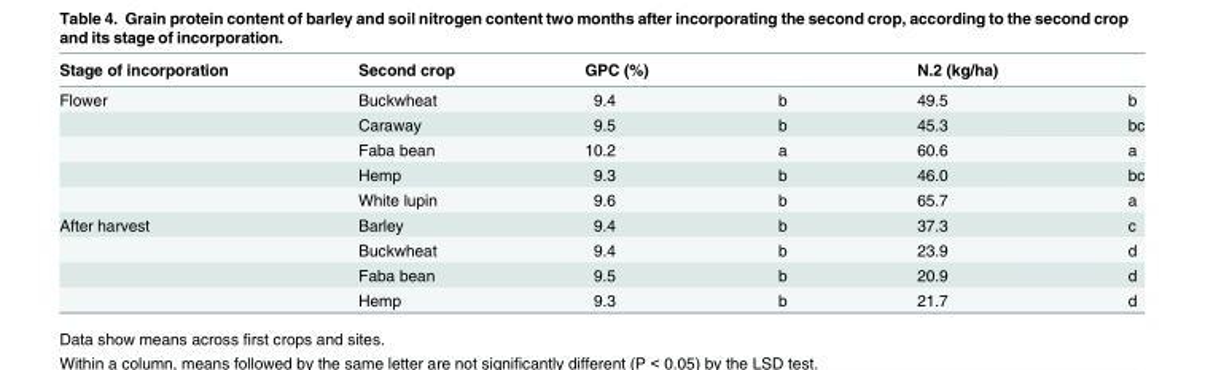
<table><thead><tr><td>Stage of incorporation</td><td>Second crop</td><td>GPC (%)</td><td></td><td>N.2 (kg/ha)</td><td></td></tr></thead><tbody><tr><td rowspan="5">Flower</td><td>Buckwheat</td><td>9.4</td><td>b</td><td>49.5</td><td>b</td></tr><tr><td>Caraway</td><td>9.5</td><td>b</td><td>45.3</td><td>bc</td></tr><tr><td>Faba bean</td><td>10.2</td><td>a</td><td>60.6</td><td>a</td></tr><tr><td>Hemp</td><td>9.3</td><td>b</td><td>46.0</td><td>bc</td></tr><tr><td>White lupin</td><td>9.6</td><td>b</td><td>65.7</td><td>a</td></tr><tr><td rowspan="4">After harvest</td><td>Barley</td><td>9.4</td><td>b</td><td>37.3</td><td>c</td></tr><tr><td>Buckwheat</td><td>9.4</td><td>b</td><td>23.9</td><td>d</td></tr><tr><td>Faba bean</td><td>9.5</td><td>b</td><td>20.9</td><td>d</td></tr><tr><td>Hemp</td><td>9.3</td><td>b</td><td>21.7</td><td>d</td></tr></tbody></table>